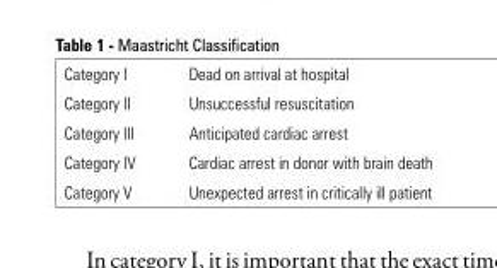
<table><tbody><tr><td>Category I</td><td>Dead on arrival at hospital</td></tr><tr><td>Category II</td><td>Unsuccessful resuscitation</td></tr><tr><td>Category III</td><td>Anticipated cardiac arrest</td></tr><tr><td>Category IV</td><td>Cardiac arrest in donor with brain death</td></tr><tr><td>Category V</td><td>Unexpected arrest in critically ill patient</td></tr></tbody></table>